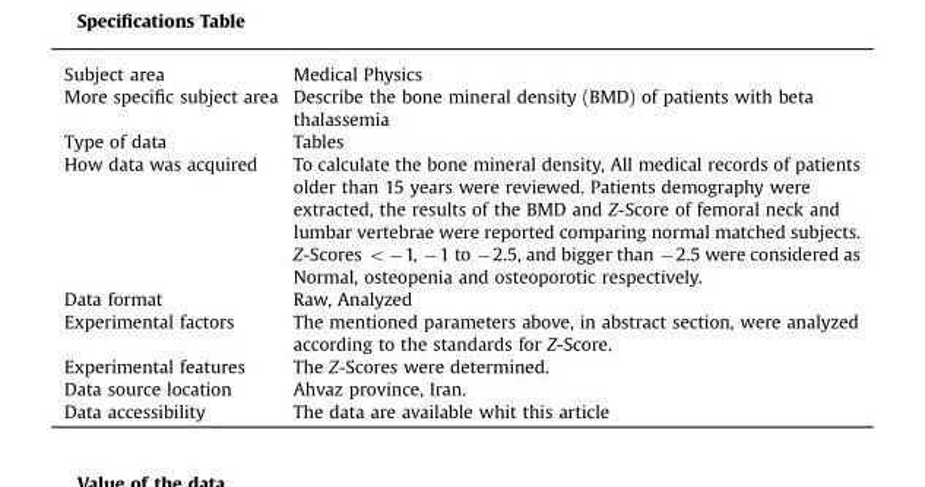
<table><thead><tr><td>Subject area</td><td>Medical Physics</td></tr></thead><tbody><tr><td>More specific subject area</td><td>Describe the bone mineral density (BMD) of patients with beta thalassemia</td></tr><tr><td>Type of data</td><td>Tables</td></tr><tr><td>How data was acquired</td><td>To calculate the bone mineral density, All medical records of patients older than 15 years were reviewed. Patients demography were extracted, the results of the BMD and Z-Score of femoral neck and lumbar vertebrae were reported comparing normal matched subjects. Z-Scores &lt; −1, −1 to −2.5, and bigger than −2.5 were considered as Normal, osteopenia and osteoporotic respectively.</td></tr><tr><td>Data format</td><td>Raw, Analyzed</td></tr><tr><td>Experimental factors</td><td>The mentioned parameters above, in abstract section, were analyzed according to the standards for Z-Score.</td></tr><tr><td>Experimental features</td><td>The Z-Scores were determined.</td></tr><tr><td>Data source location</td><td>Ahvaz province, Iran.</td></tr><tr><td>Data accessibility</td><td>The data are available whit this article</td></tr></tbody></table>